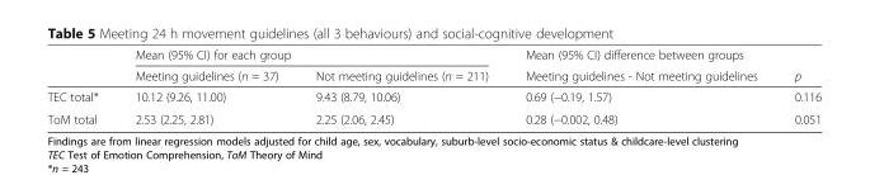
<table><thead><tr><td rowspan="2"></td><td colspan="2">Mean (95% CI) for each group</td><td rowspan="2">Mean (95% CI) difference between groups Meeting guidelines - Not meeting guidelines</td><td rowspan="2">p</td></tr><tr><td>Meeting guidelines (n = 37)</td><td>Not meeting guidelines (n = 211)</td></tr></thead><tbody><tr><td>TEC total*</td><td>10.12 (9.26, 11.00)</td><td>9.43 (8.79, 10.06)</td><td>0.69 (−0.19, 1.57)</td><td>0.116</td></tr><tr><td>ToM total</td><td>2.53 (2.25, 2.81)</td><td>2.25 (2.06, 2.45)</td><td>0.28 (−0.002, 0.48)</td><td>0.051</td></tr></tbody></table>